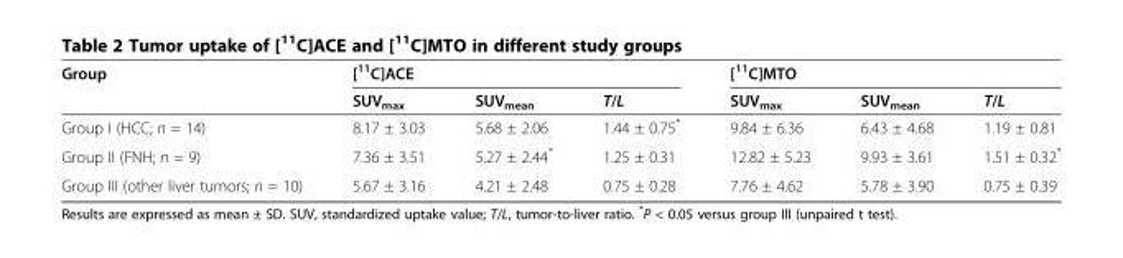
<table><thead><tr><td rowspan="2">Group</td><td colspan="3">[<sup>11</sup>C]ACE</td><td colspan="3">[<sup>11</sup>C]MTO</td></tr><tr><td>SUV<sub>max</sub></td><td>SUV<sub>mean</sub></td><td>T/L</td><td>SUV<sub>max</sub></td><td>SUV<sub>mean</sub></td><td>T/L</td></tr></thead><tbody><tr><td>Group I (HCC; n = 14)</td><td>8.17 ± 3.03</td><td>5.68 ± 2.06</td><td>1.44 ± 0.75*</td><td>9.84 ± 6.36</td><td>6.43 ± 4.68</td><td>1.19 ± 0.81</td></tr><tr><td>Group II (FNH; n = 9)</td><td>7.36 ± 3.51</td><td>5.27 ± 2.44*</td><td>1.25 ± 0.31</td><td>12.82 ± 5.23</td><td>9.93 ± 3.61</td><td>1.51 ± 0.32*</td></tr><tr><td>Group III (other liver tumors; n = 10)</td><td>5.67 ± 3.16</td><td>4.21 ± 2.48</td><td>0.75 ± 0.28</td><td>7.76 ± 4.62</td><td>5.78 ± 3.90</td><td>0.75 ± 0.39</td></tr></tbody></table>